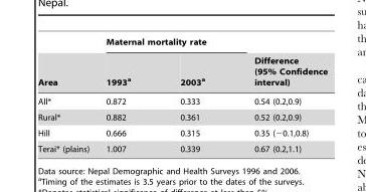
<table><thead><tr><td rowspan="2">Area</td><td colspan="2">Maternal mortality rate</td><td rowspan="2">Difference (95% Confidence interval)</td></tr><tr><td>1993<sup>a</sup></td><td>2003<sup>a</sup></td></tr></thead><tbody><tr><td>All*</td><td>0.872</td><td>0.333</td><td>0.54 (0.2,0.9)</td></tr><tr><td>Rural*</td><td>0.882</td><td>0.361</td><td>0.52 (0.2,0.9)</td></tr><tr><td>Hill</td><td>0.666</td><td>0.315</td><td>0.35 (−0.1,0.8)</td></tr><tr><td>Terai* (plains)</td><td>1.007</td><td>0.339</td><td>0.67 (0.2,1.1)</td></tr></tbody></table>